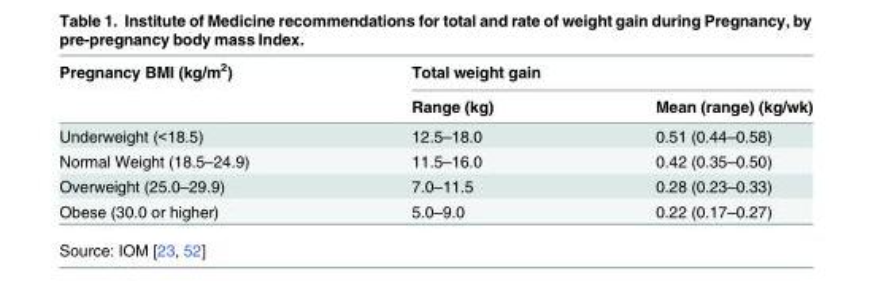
<table><thead><tr><td rowspan="2">Pregnancy BMI (kg/m<sup>2</sup>)</td><td colspan="2">Total weight gain</td></tr><tr><td>Range (kg)</td><td>Mean (range) (kg/wk)</td></tr></thead><tbody><tr><td>Underweight (&lt;18.5)</td><td>12.5–18.0</td><td>0.51 (0.44–0.58)</td></tr><tr><td>Normal Weight (18.5–24.9)</td><td>11.5–16.0</td><td>0.42 (0.35–0.50)</td></tr><tr><td>Overweight (25.0–29.9)</td><td>7.0–11.5</td><td>0.28 (0.23–0.33)</td></tr><tr><td>Obese (30.0 or higher)</td><td>5.0–9.0</td><td>0.22 (0.17–0.27)</td></tr></tbody></table>